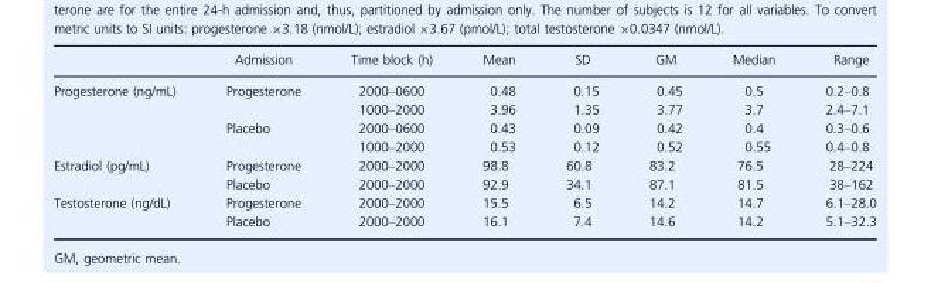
<table><thead><tr><td></td><td>Admission</td><td>Time block (h)</td><td>Mean</td><td>SD</td><td>GM</td><td>Median</td><td>Range</td></tr></thead><tbody><tr><td rowspan="4">Progesterone (ng/mL)</td><td rowspan="2">Progesterone</td><td>2000–0600</td><td>0.48</td><td>0.15</td><td>0.45</td><td>0.5</td><td>0.2–0.8</td></tr><tr><td>1000–2000</td><td>3.96</td><td>1.35</td><td>3.77</td><td>3.7</td><td>2.4–7.1</td></tr><tr><td rowspan="2">Placebo</td><td>2000–0600</td><td>0.43</td><td>0.09</td><td>0.42</td><td>0.4</td><td>0.3–0.6</td></tr><tr><td>1000–2000</td><td>0.53</td><td>0.12</td><td>0.52</td><td>0.55</td><td>0.4–0.8</td></tr><tr><td rowspan="2">Estradiol (pg/mL)</td><td>Progesterone</td><td>2000–2000</td><td>98.8</td><td>60.8</td><td>83.2</td><td>76.5</td><td>28–224</td></tr><tr><td>Placebo</td><td>2000–2000</td><td>92.9</td><td>34.1</td><td>87.1</td><td>81.5</td><td>38–162</td></tr><tr><td rowspan="2">Testosterone (ng/dL)</td><td>Progesterone</td><td>2000–2000</td><td>15.5</td><td>6.5</td><td>14.2</td><td>14.7</td><td>6.1–28.0</td></tr><tr><td>Placebo</td><td>2000–2000</td><td>16.1</td><td>7.4</td><td>14.6</td><td>14.2</td><td>5.1–32.3</td></tr></tbody></table>